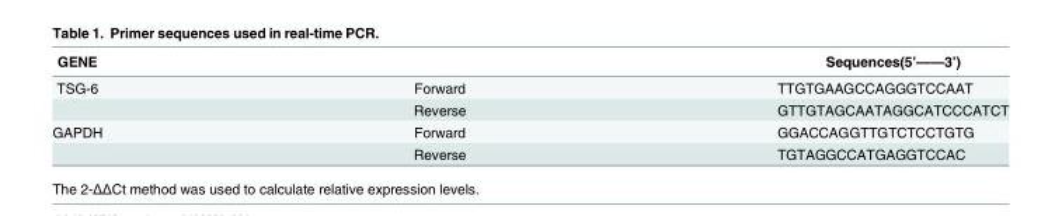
<table><thead><tr><td>GENE</td><td></td><td>Sequences(5’——3’)</td></tr></thead><tbody><tr><td rowspan="2">TSG-6</td><td>Forward</td><td>TTGTGAAGCCAGGGTCCAAT</td></tr><tr><td>Reverse</td><td>GTTGTAGCAATAGGCATCCCATCT</td></tr><tr><td rowspan="2">GAPDH</td><td>Forward</td><td>GGACCAGGTTGTCTCCTGTG</td></tr><tr><td>Reverse</td><td>TGTAGGCCATGAGGTCCAC</td></tr></tbody></table>